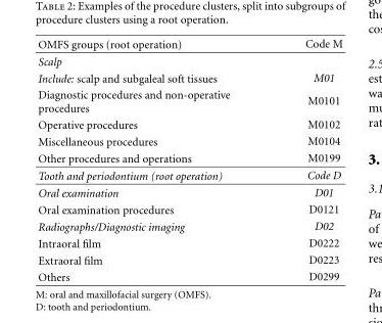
<table><thead><tr><td>OMFS groups (root operation)</td><td>Code M</td></tr></thead><tbody><tr><td colspan="2">Scalp</td></tr><tr><td>Include: scalp and subgaleal soft tissues</td><td>M01</td></tr><tr><td>Diagnostic procedures and non-operative procedures</td><td>M0101</td></tr><tr><td>Operative procedures</td><td>M0102</td></tr><tr><td>Miscellaneous procedures</td><td>M0104</td></tr><tr><td>Other procedures and operations</td><td>M0199</td></tr><tr><td>Tooth and periodontium (root operation)</td><td>Code D</td></tr><tr><td>Oral examination</td><td>D01</td></tr><tr><td>Oral examination procedures</td><td>D0121</td></tr><tr><td>Radiographs/Diagnostic imaging</td><td>D02</td></tr><tr><td>Intraoral film</td><td>D0222</td></tr><tr><td>Extraoral film</td><td>D0223</td></tr><tr><td>Others</td><td>D0299</td></tr></tbody></table>